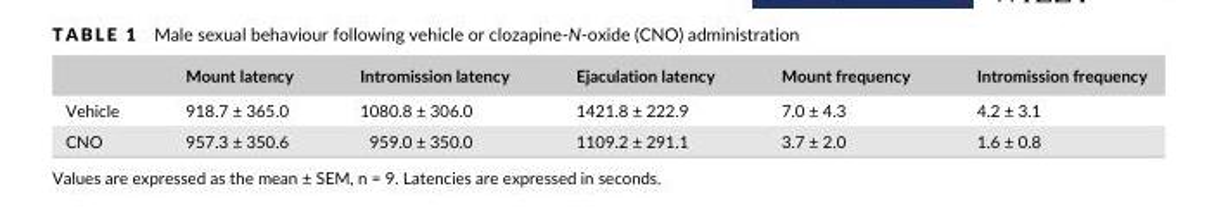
<table><thead><tr><td></td><td>Mount latency</td><td>Intromission latency</td><td>Ejaculation latency</td><td>Mount frequency</td><td>Intromission frequency</td></tr></thead><tbody><tr><td>Vehicle</td><td>918.7 ± 365.0</td><td>1080.8 ± 306.0</td><td>1421.8 ± 222.9</td><td>7.0 ± 4.3</td><td>4.2 ± 3.1</td></tr><tr><td>CNO</td><td>957.3 ± 350.6</td><td>959.0 ± 350.0</td><td>1109.2 ± 291.1</td><td>3.7 ± 2.0</td><td>1.6 ± 0.8</td></tr></tbody></table>